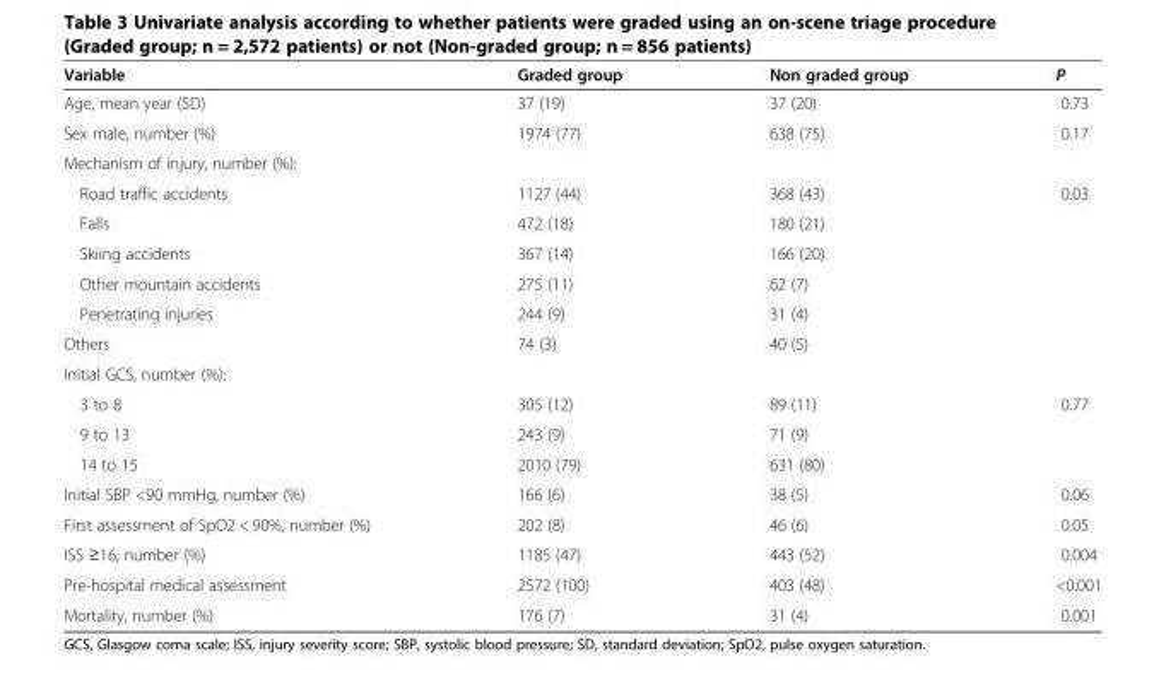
<table><thead><tr><td>Variable</td><td>Graded group</td><td>Non graded group</td><td>P</td></tr></thead><tbody><tr><td>Age, mean year (SD)</td><td>37 (19)</td><td>37 (20)</td><td>0.73</td></tr><tr><td>Sex male, number (%)</td><td>1974 (77)</td><td>638 (75)</td><td>0.17</td></tr><tr><td colspan="4">Mechanism of injury, number (%):</td></tr><tr><td>Road traffic accidents</td><td>1127 (44)</td><td>368 (43)</td><td>0.03</td></tr><tr><td>Falls</td><td>472 (18)</td><td>180 (21)</td><td></td></tr><tr><td>Skiing accidents</td><td>367 (14)</td><td>166 (20)</td><td></td></tr><tr><td>Other mountain accidents</td><td>275 (11)</td><td>62 (7)</td><td></td></tr><tr><td>Penetrating injuries</td><td>244 (9)</td><td>31 (4)</td><td></td></tr><tr><td>Others</td><td>74 (3)</td><td>40 (5)</td><td></td></tr><tr><td colspan="4">Initial GCS, number (%):</td></tr><tr><td>3 to 8</td><td>305 (12)</td><td>89 (11)</td><td>0.77</td></tr><tr><td>9 to 13</td><td>243 (9)</td><td>71 (9)</td><td></td></tr><tr><td>14 to 15</td><td>2010 (79)</td><td>631 (80)</td><td></td></tr><tr><td>Initial SBP &lt;90 mmHg, number (%)</td><td>166 (6)</td><td>38 (5)</td><td>0.06</td></tr><tr><td>First assessment of SpO2 &lt; 90%, number (%)</td><td>202 (8)</td><td>46 (6)</td><td>0.05</td></tr><tr><td>ISS ≥16, number (%)</td><td>1185 (47)</td><td>443 (52)</td><td>0.004</td></tr><tr><td>Pre-hospital medical assessment</td><td>2572 (100)</td><td>403 (48)</td><td>&lt;0.001</td></tr><tr><td>Mortality, number (%)</td><td>176 (7)</td><td>31 (4)</td><td>0.001</td></tr></tbody></table>